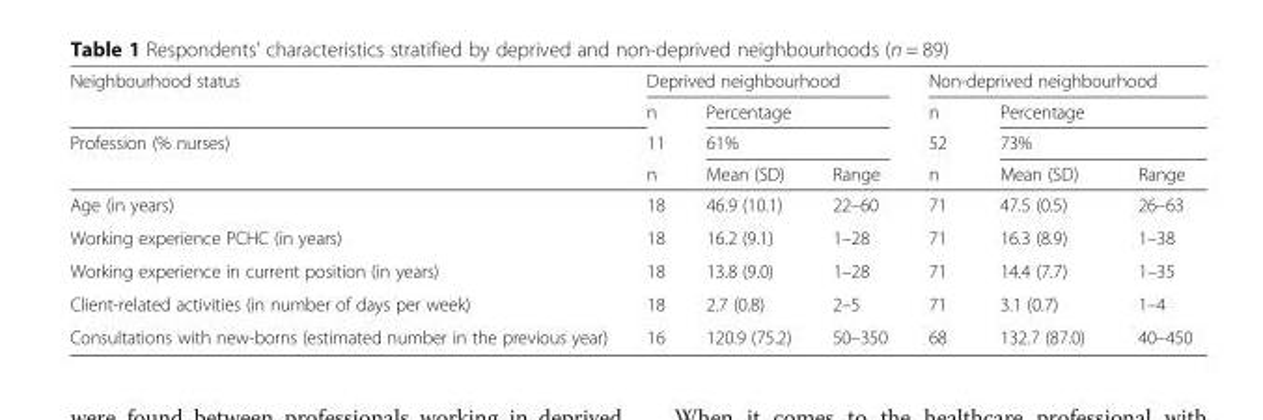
<table><thead><tr><td rowspan="4">Neighbourhood status Profession (% nurses)</td><td colspan="3">Deprived neighbourhood</td><td colspan="3">Non-deprived neighbourhood</td></tr><tr><td rowspan="3">n 11 n</td><td rowspan="2" colspan="2">Percentage 61%</td><td rowspan="3">n 52 n</td><td rowspan="2" colspan="2">Percentage 73%</td></tr><tr></tr><tr><td>Mean (SD)</td><td>Range</td><td>Mean (SD)</td><td>Range</td></tr></thead><tbody><tr><td>Age (in years)</td><td>18</td><td>46.9 (10.1)</td><td>22–60</td><td>71</td><td>47.5 (0.5)</td><td>26–63</td></tr><tr><td>Working experience PCHC (in years)</td><td>18</td><td>16.2 (9.1)</td><td>1–28</td><td>71</td><td>16.3 (8.9)</td><td>1–38</td></tr><tr><td>Working experience in current position (in years)</td><td>18</td><td>13.8 (9.0)</td><td>1–28</td><td>71</td><td>14.4 (7.7)</td><td>1–35</td></tr><tr><td>Client-related activities (in number of days per week)</td><td>18</td><td>2.7 (0.8)</td><td>2–5</td><td>71</td><td>3.1 (0.7)</td><td>1–4</td></tr><tr><td>Consultations with new-borns (estimated number in the previous year)</td><td>16</td><td>120.9 (75.2)</td><td>50–350</td><td>68</td><td>132.7 (87.0)</td><td>40–450</td></tr></tbody></table>